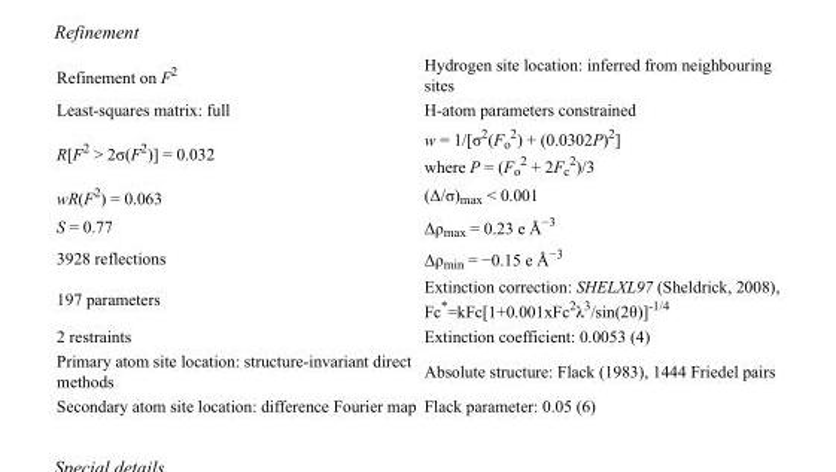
<table><tbody><tr><td>Refinement on F<sup>2</sup></td><td>Hydrogen site location: inferred from neighbouring sites</td></tr><tr><td>Least-squares matrix: full</td><td>H-atom parameters constrained</td></tr><tr><td>R[F<sup>2</sup> &gt; 2σ(F<sup>2</sup>)] = 0.032</td><td>w = 1/[σ<sup>2</sup>(F<sub>o</sub> <sup>2</sup>) + (0.0302P)<sup>2</sup>] where P = (F<sub>o</sub> <sup>2</sup> + 2F<sub>c</sub> <sup>2</sup>)/3</td></tr><tr><td>wR(F<sup>2</sup>) = 0.063</td><td>(Δ/σ)<sub>max</sub> &lt; 0.001</td></tr><tr><td>S = 0.77</td><td>Δρ<sub>max</sub> = 0.23 e Å<sup>−3</sup></td></tr><tr><td>3928 reflections</td><td>Δρ<sub>min</sub> = −0.15 e Å<sup>−3</sup></td></tr><tr><td>197 parameters</td><td>Extinction correction: SHELXL97 (Sheldrick, 2008), Fc*=kFc[1+0.001xFc<sup>2</sup>λ<sup>3</sup>/sin(2θ)]<sup>-1/4</sup></td></tr><tr><td>2 restraints</td><td>Extinction coefficient: 0.0053 (4)</td></tr><tr><td>Primary atom site location: structure-invariant direct methods</td><td>Absolute structure: Flack (1983), 1444 Friedel pairs</td></tr><tr><td>Secondary atom site location: difference Fourier map</td><td>Flack parameter: 0.05 (6)</td></tr></tbody></table>